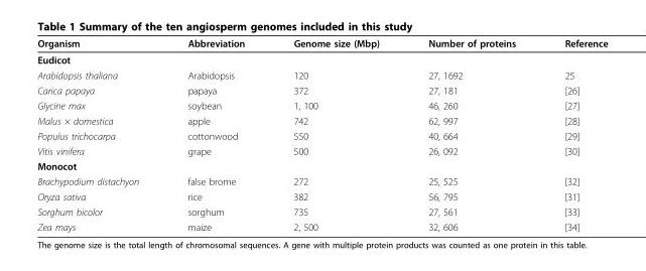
<table><thead><tr><td>Organism</td><td>Abbreviation</td><td>Genome size (Mbp)</td><td>Number of proteins</td><td>Reference</td></tr></thead><tbody><tr><td colspan="5">Eudicot</td></tr><tr><td>Arabidopsis thaliana</td><td>Arabidopsis</td><td>120</td><td>27, 1692</td><td>25</td></tr><tr><td>Carica papaya</td><td>papaya</td><td>372</td><td>27, 181</td><td>[26]</td></tr><tr><td>Glycine max</td><td>soybean</td><td>1, 100</td><td>46, 260</td><td>[27]</td></tr><tr><td>Malus × domestica</td><td>apple</td><td>742</td><td>62, 997</td><td>[28]</td></tr><tr><td>Populus trichocarpa</td><td>cottonwood</td><td>550</td><td>40, 664</td><td>[29]</td></tr><tr><td>Vitis vinifera</td><td>grape</td><td>500</td><td>26, 092</td><td>[30]</td></tr><tr><td colspan="5">Monocot</td></tr><tr><td>Brachypodium distachyon</td><td>false brome</td><td>272</td><td>25, 525</td><td>[32]</td></tr><tr><td>Oryza sativa</td><td>rice</td><td>382</td><td>56, 795</td><td>[31]</td></tr><tr><td>Sorghum bicolor</td><td>sorghum</td><td>735</td><td>27, 561</td><td>[33]</td></tr><tr><td>Zea mays</td><td>maize</td><td>2, 500</td><td>32, 606</td><td>[34]</td></tr></tbody></table>